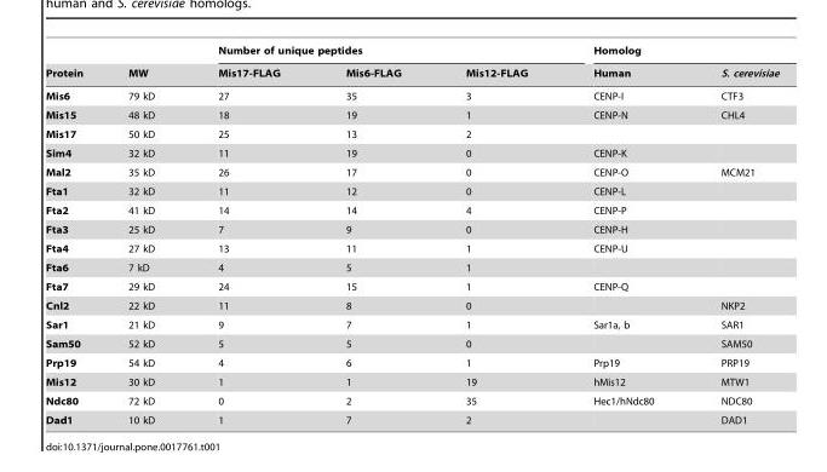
<table><thead><tr><td rowspan="2">Protein</td><td rowspan="2">MW</td><td colspan="3">Number of unique peptides</td><td colspan="2">Homolog</td></tr><tr><td>Mis17-FLAG</td><td>Mis6-FLAG</td><td>Mis12-FLAG</td><td>Human</td><td>S. cerevisiae</td></tr></thead><tbody><tr><td>Mis6</td><td>79 kD</td><td>27</td><td>35</td><td>3</td><td>CENP-I</td><td>CTF3</td></tr><tr><td>Mis15</td><td>48 kD</td><td>18</td><td>19</td><td>1</td><td>CENP-N</td><td>CHL4</td></tr><tr><td>Mis17</td><td>50 kD</td><td>25</td><td>13</td><td>2</td><td></td><td></td></tr><tr><td>Sim4</td><td>32 kD</td><td>11</td><td>19</td><td>0</td><td>CENP-K</td><td></td></tr><tr><td>Mal2</td><td>35 kD</td><td>26</td><td>17</td><td>0</td><td>CENP-O</td><td>MCM21</td></tr><tr><td>Fta1</td><td>32 kD</td><td>11</td><td>12</td><td>0</td><td>CENP-L</td><td></td></tr><tr><td>Fta2</td><td>41 kD</td><td>14</td><td>14</td><td>4</td><td>CENP-P</td><td></td></tr><tr><td>Fta3</td><td>25 kD</td><td>7</td><td>9</td><td>0</td><td>CENP-H</td><td></td></tr><tr><td>Fta4</td><td>27 kD</td><td>13</td><td>11</td><td>1</td><td>CENP-U</td><td></td></tr><tr><td>Fta6</td><td>7 kD</td><td>4</td><td>5</td><td>1</td><td></td><td></td></tr><tr><td>Fta7</td><td>29 kD</td><td>24</td><td>15</td><td>1</td><td>CENP-Q</td><td></td></tr><tr><td>Cnl2</td><td>22 kD</td><td>11</td><td>8</td><td>0</td><td></td><td>NKP2</td></tr><tr><td>Sar1</td><td>21 kD</td><td>9</td><td>7</td><td>1</td><td>Sar1a, b</td><td>SAR1</td></tr><tr><td>Sam50</td><td>52 kD</td><td>5</td><td>5</td><td>0</td><td></td><td>SAM50</td></tr><tr><td>Prp19</td><td>54 kD</td><td>4</td><td>6</td><td>1</td><td>Prp19</td><td>PRP19</td></tr><tr><td>Mis12</td><td>30 kD</td><td>1</td><td>1</td><td>19</td><td>hMis12</td><td>MTW1</td></tr><tr><td>Ndc80</td><td>72 kD</td><td>0</td><td>2</td><td>35</td><td>Hec1/hNdc80</td><td>NDC80</td></tr><tr><td>Dad1</td><td>10 kD</td><td>1</td><td>7</td><td>2</td><td></td><td>DAD1</td></tr></tbody></table>